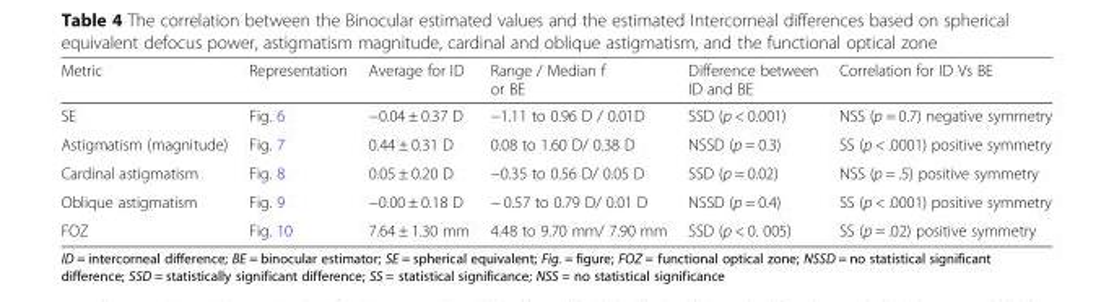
<table><thead><tr><td>Metric</td><td>Representation</td><td>Average for ID</td><td>Range / Median f or BE</td><td>Difference between ID and BE</td><td>Correlation for ID Vs BE</td></tr></thead><tbody><tr><td>SE</td><td>Fig. 6</td><td>−0.04 ± 0.37 D</td><td>−1.11 to 0.96 D / 0.01D</td><td>SSD (p &lt; 0.001)</td><td>NSS (p = 0.7) negative symmetry</td></tr><tr><td>Astigmatism (magnitude)</td><td>Fig. 7</td><td>0.44 ± 0.31 D</td><td>0.08 to 1.60 D/ 0.38 D</td><td>NSSD (p = 0.3)</td><td>SS (p &lt; .0001) positive symmetry</td></tr><tr><td>Cardinal astigmatism</td><td>Fig. 8</td><td>0.05 ± 0.20 D</td><td>−0.35 to 0.56 D/ 0.05 D</td><td>SSD (p = 0.02)</td><td>NSS (p = .5) positive symmetry</td></tr><tr><td>Oblique astigmatism</td><td>Fig. 9</td><td>−0.00 ± 0.18 D</td><td>− 0.57 to 0.79 D/ 0.01 D</td><td>NSSD (p = 0.4)</td><td>SS (p &lt; .0001) positive symmetry</td></tr><tr><td>FOZ</td><td>Fig. 10</td><td>7.64 ± 1.30 mm</td><td>4.48 to 9.70 mm/ 7.90 mm</td><td>SSD (p &lt; 0. 005)</td><td>SS (p = .02) positive symmetry</td></tr></tbody></table>